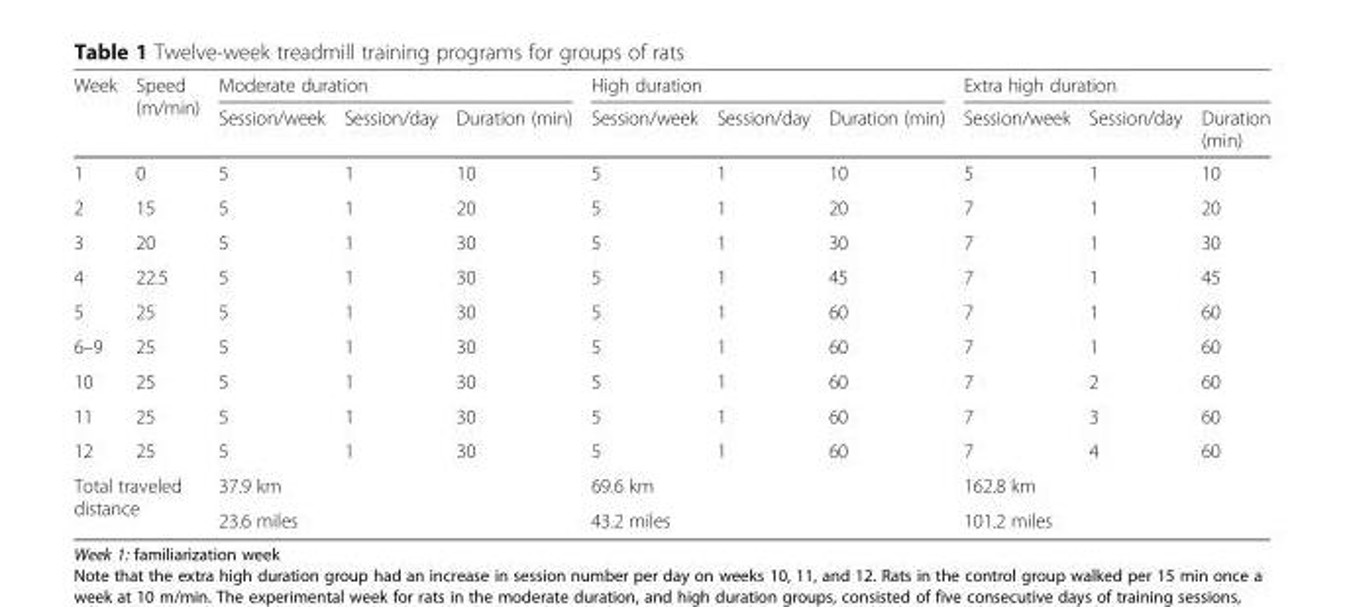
<table><thead><tr><td rowspan="2">Week</td><td rowspan="2">Speed (m/min)</td><td colspan="3">Moderate duration</td><td colspan="3">High duration</td><td colspan="3">Extra high duration</td></tr><tr><td>Session/week</td><td>Session/day</td><td>Duration (min)</td><td>Session/week</td><td>Session/day</td><td>Duration (min)</td><td>Session/week</td><td>Session/day</td><td>Duration (min)</td></tr></thead><tbody><tr><td>1</td><td>0</td><td>5</td><td>1</td><td>10</td><td>5</td><td>1</td><td>10</td><td>5</td><td>1</td><td>10</td></tr><tr><td>2</td><td>15</td><td>5</td><td>1</td><td>20</td><td>5</td><td>1</td><td>20</td><td>7</td><td>1</td><td>20</td></tr><tr><td>3</td><td>20</td><td>5</td><td>1</td><td>30</td><td>5</td><td>1</td><td>30</td><td>7</td><td>1</td><td>30</td></tr><tr><td>4</td><td>22.5</td><td>5</td><td>1</td><td>30</td><td>5</td><td>1</td><td>45</td><td>7</td><td>1</td><td>45</td></tr><tr><td>5</td><td>25</td><td>5</td><td>1</td><td>30</td><td>5</td><td>1</td><td>60</td><td>7</td><td>1</td><td>60</td></tr><tr><td>6–9</td><td>25</td><td>5</td><td>1</td><td>30</td><td>5</td><td>1</td><td>60</td><td>7</td><td>1</td><td>60</td></tr><tr><td>10</td><td>25</td><td>5</td><td>1</td><td>30</td><td>5</td><td>1</td><td>60</td><td>7</td><td>2</td><td>60</td></tr><tr><td>11</td><td>25</td><td>5</td><td>1</td><td>30</td><td>5</td><td>1</td><td>60</td><td>7</td><td>3</td><td>60</td></tr><tr><td>12</td><td>25</td><td>5</td><td>1</td><td>30</td><td>5</td><td>1</td><td>60</td><td>7</td><td>4</td><td>60</td></tr><tr><td rowspan="2" colspan="2">Total traveled distance</td><td colspan="3">37.9 km</td><td colspan="3">69.6 km</td><td colspan="3">162.8 km</td></tr><tr><td colspan="3">23.6 miles</td><td colspan="3">43.2 miles</td><td colspan="3">101.2 miles</td></tr></tbody></table>